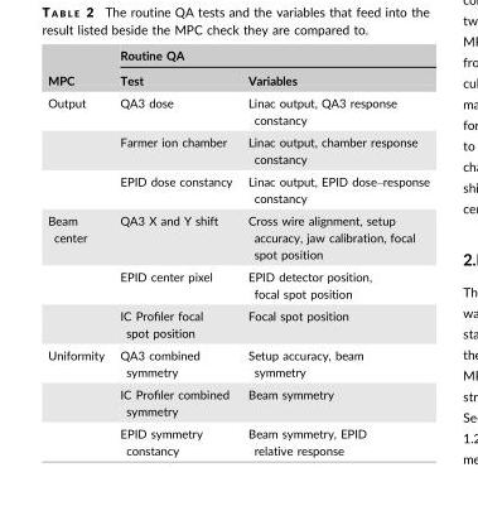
<table><thead><tr><td rowspan="2">MPC</td><td colspan="2">Routine QA</td></tr><tr><td>Test</td><td>Variables</td></tr></thead><tbody><tr><td rowspan="3">Output</td><td>QA3 dose</td><td>Linac output, QA3 response constancy</td></tr><tr><td>Farmer ion chamber</td><td>Linac output, chamber response constancy</td></tr><tr><td>EPID dose constancy</td><td>Linac output, EPID dose–response constancy</td></tr><tr><td rowspan="3">Beam center</td><td>QA3 X and Y shift</td><td>Cross wire alignment, setup accuracy, jaw calibration, focal spot position</td></tr><tr><td>EPID center pixel</td><td>EPID detector position, focal spot position</td></tr><tr><td>IC Profiler focal spot position</td><td>Focal spot position</td></tr><tr><td rowspan="3">Uniformity</td><td>QA3 combined symmetry</td><td>Setup accuracy, beam symmetry</td></tr><tr><td>IC Profiler combined symmetry</td><td>Beam symmetry</td></tr><tr><td>EPID symmetry constancy</td><td>Beam symmetry, EPID relative response</td></tr></tbody></table>